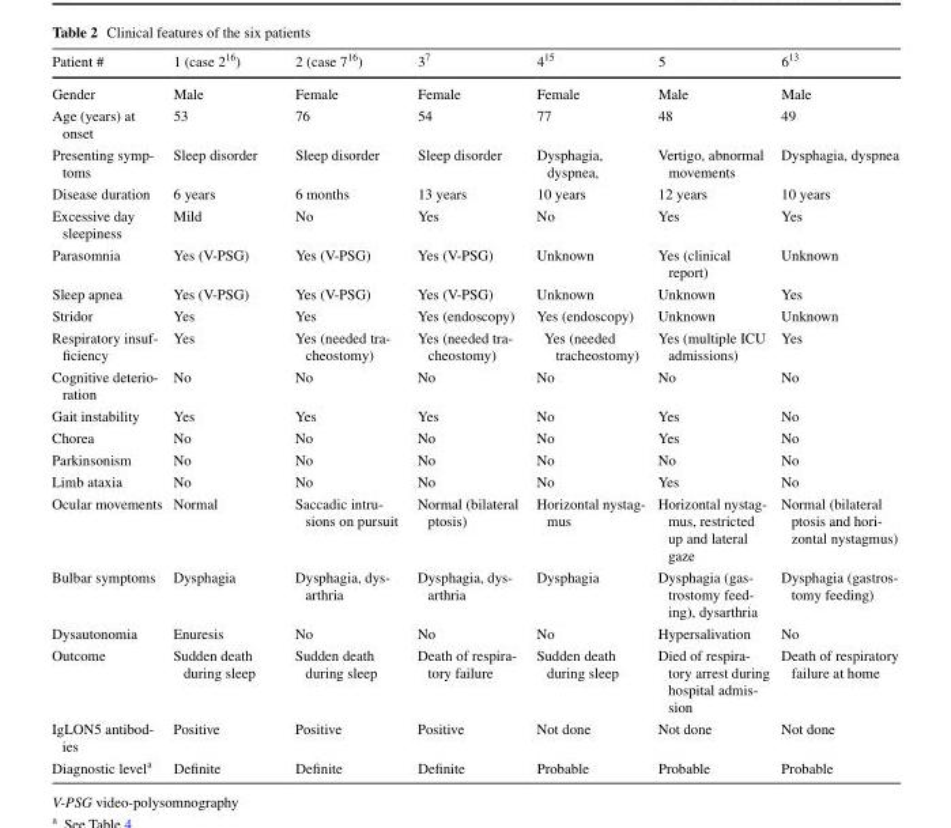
<table><thead><tr><td>Patient #</td><td>1 (case 2<sup>16</sup>)</td><td>2 (case 7<sup>16</sup>)</td><td>3<sup>7</sup></td><td>4<sup>15</sup></td><td>5</td><td>6<sup>13</sup></td></tr></thead><tbody><tr><td>Gender</td><td>Male</td><td>Female</td><td>Female</td><td>Female</td><td>Male</td><td>Male</td></tr><tr><td>Age (years) at onset</td><td>53</td><td>76</td><td>54</td><td>77</td><td>48</td><td>49</td></tr><tr><td>Presenting symp- toms</td><td>Sleep disorder</td><td>Sleep disorder</td><td>Sleep disorder</td><td>Dysphagia, dyspnea,</td><td>Vertigo, abnormal movements</td><td>Dysphagia, dyspnea</td></tr><tr><td>Disease duration</td><td>6 years</td><td>6 months</td><td>13 years</td><td>10 years</td><td>12 years</td><td>10 years</td></tr><tr><td>Excessive day sleepiness</td><td>Mild</td><td>No</td><td>Yes</td><td>No</td><td>Yes</td><td>Yes</td></tr><tr><td>Parasomnia</td><td>Yes (V-PSG)</td><td>Yes (V-PSG)</td><td>Yes (V-PSG)</td><td>Unknown</td><td>Yes (clinical report)</td><td>Unknown</td></tr><tr><td>Sleep apnea</td><td>Yes (V-PSG)</td><td>Yes (V-PSG)</td><td>Yes (V-PSG)</td><td>Unknown</td><td>Unknown</td><td>Yes</td></tr><tr><td>Stridor</td><td>Yes</td><td>Yes</td><td>Yes (endoscopy)</td><td>Yes (endoscopy)</td><td>Unknown</td><td>Unknown</td></tr><tr><td>Respiratory insuf- ficiency</td><td>Yes</td><td>Yes (needed tra- cheostomy)</td><td>Yes (needed tra- cheostomy)</td><td>Yes (needed tracheostomy)</td><td>Yes (multiple ICU admissions)</td><td>Yes</td></tr><tr><td>Cognitive deterio- ration</td><td>No</td><td>No</td><td>No</td><td>No</td><td>No</td><td>No</td></tr><tr><td>Gait instability</td><td>Yes</td><td>Yes</td><td>Yes</td><td>No</td><td>Yes</td><td>No</td></tr><tr><td>Chorea</td><td>No</td><td>No</td><td>No</td><td>No</td><td>Yes</td><td>No</td></tr><tr><td>Parkinsonism</td><td>No</td><td>No</td><td>No</td><td>No</td><td>No</td><td>No</td></tr><tr><td>Limb ataxia</td><td>No</td><td>No</td><td>No</td><td>No</td><td>Yes</td><td>No</td></tr><tr><td>Ocular movements</td><td>Normal</td><td>Saccadic intru- sions on pursuit</td><td>Normal (bilateral ptosis)</td><td>Horizontal nystag- mus</td><td>Horizontal nystag- mus, restricted up and lateral gaze</td><td>Normal (bilateral ptosis and hori- zontal nystagmus)</td></tr><tr><td>Bulbar symptoms</td><td>Dysphagia</td><td>Dysphagia, dys- arthria</td><td>Dysphagia, dys- arthria</td><td>Dysphagia</td><td>Dysphagia (gas- trostomy feed- ing), dysarthria</td><td>Dysphagia (gastros- tomy feeding)</td></tr><tr><td>Dysautonomia</td><td>Enuresis</td><td>No</td><td>No</td><td>No</td><td>Hypersalivation</td><td>No</td></tr><tr><td>Outcome</td><td>Sudden death during sleep</td><td>Sudden death during sleep</td><td>Death of respira- tory failure</td><td>Sudden death during sleep</td><td>Died of respira- tory arrest during hospital admis- sion</td><td>Death of respiratory failure at home</td></tr><tr><td>IgLON5 antibod- ies</td><td>Positive</td><td>Positive</td><td>Positive</td><td>Not done</td><td>Not done</td><td>Not done</td></tr><tr><td>Diagnostic level<sup>a</sup></td><td>Definite</td><td>Definite</td><td>Definite</td><td>Probable</td><td>Probable</td><td>Probable</td></tr></tbody></table>